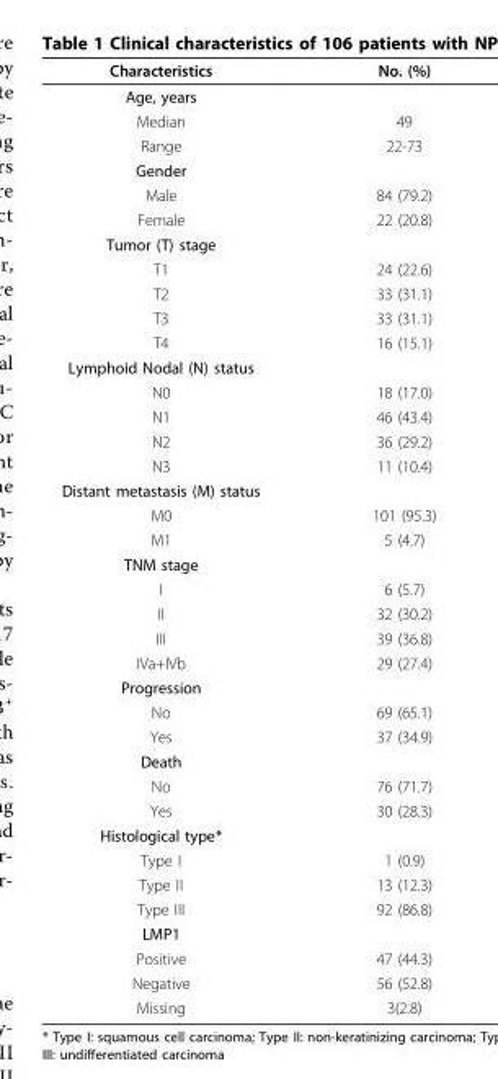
<table><thead><tr><td>Characteristics</td><td>No. (%)</td></tr></thead><tbody><tr><td colspan="2">Age, years</td></tr><tr><td>Median</td><td>49</td></tr><tr><td>Range</td><td>22-73</td></tr><tr><td colspan="2">Gender</td></tr><tr><td>Male</td><td>84 (79.2)</td></tr><tr><td>Female</td><td>22 (20.8)</td></tr><tr><td colspan="2">Tumor (T) stage</td></tr><tr><td>T1</td><td>24 (22.6)</td></tr><tr><td>T2</td><td>33 (31.1)</td></tr><tr><td>T3</td><td>33 (31.1)</td></tr><tr><td>T4</td><td>16 (15.1)</td></tr><tr><td colspan="2">Lymphoid Nodal (N) status</td></tr><tr><td>N0</td><td>18 (17.0)</td></tr><tr><td>N1</td><td>46 (43.4)</td></tr><tr><td>N2</td><td>36 (29.2)</td></tr><tr><td>N3</td><td>11 (10.4)</td></tr><tr><td colspan="2">Distant metastasis (M) status</td></tr><tr><td>M0</td><td>101 (95.3)</td></tr><tr><td>M1</td><td>5 (4.7)</td></tr><tr><td colspan="2">TNM stage</td></tr><tr><td>I</td><td>6 (5.7)</td></tr><tr><td>II</td><td>32 (30.2)</td></tr><tr><td>III</td><td>39 (36.8)</td></tr><tr><td>IVa+IVb</td><td>29 (27.4)</td></tr><tr><td colspan="2">Progression</td></tr><tr><td>No</td><td>69 (65.1)</td></tr><tr><td>Yes</td><td>37 (34.9)</td></tr><tr><td colspan="2">Death</td></tr><tr><td>No</td><td>76 (71.7)</td></tr><tr><td>Yes</td><td>30 (28.3)</td></tr><tr><td colspan="2">Histological type*</td></tr><tr><td>Type I</td><td>1 (0.9)</td></tr><tr><td>Type II</td><td>13 (12.3)</td></tr><tr><td>Type III</td><td>92 (86.8)</td></tr><tr><td colspan="2">LMP1</td></tr><tr><td>Positive</td><td>47 (44.3)</td></tr><tr><td>Negative</td><td>56 (52.8)</td></tr><tr><td>Missing</td><td>3(2.8)</td></tr></tbody></table>